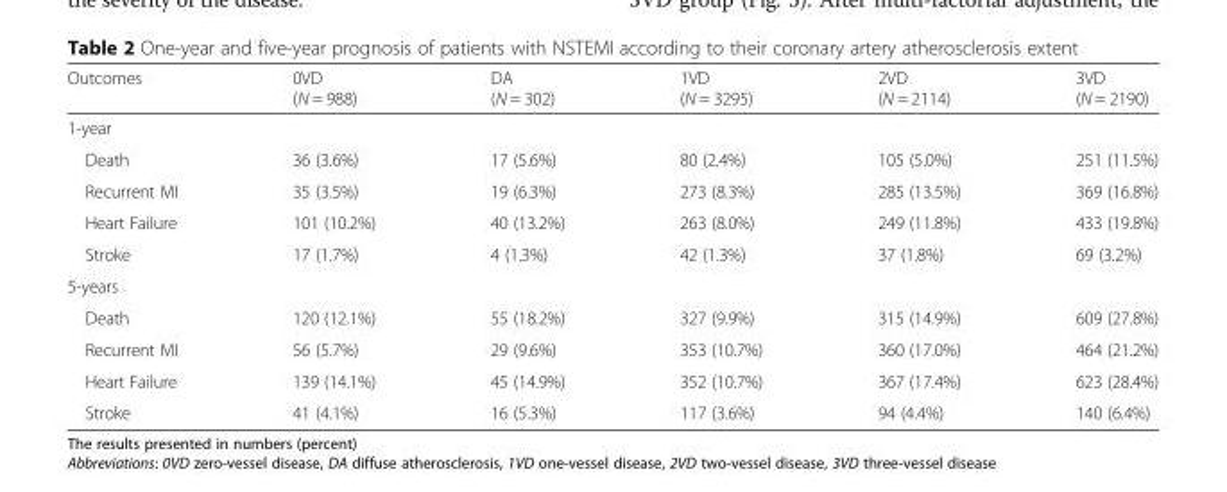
<table><thead><tr><td>Outcomes</td><td>0VD (N = 988)</td><td>DA (N = 302)</td><td>1VD (N = 3295)</td><td>2VD (N = 2114)</td><td>3VD (N = 2190)</td></tr></thead><tbody><tr><td colspan="6">1-year</td></tr><tr><td>Death</td><td>36 (3.6%)</td><td>17 (5.6%)</td><td>80 (2.4%)</td><td>105 (5.0%)</td><td>251 (11.5%)</td></tr><tr><td>Recurrent MI</td><td>35 (3.5%)</td><td>19 (6.3%)</td><td>273 (8.3%)</td><td>285 (13.5%)</td><td>369 (16.8%)</td></tr><tr><td>Heart Failure</td><td>101 (10.2%)</td><td>40 (13.2%)</td><td>263 (8.0%)</td><td>249 (11.8%)</td><td>433 (19.8%)</td></tr><tr><td>Stroke</td><td>17 (1.7%)</td><td>4 (1.3%)</td><td>42 (1.3%)</td><td>37 (1.8%)</td><td>69 (3.2%)</td></tr><tr><td colspan="6">5-years</td></tr><tr><td>Death</td><td>120 (12.1%)</td><td>55 (18.2%)</td><td>327 (9.9%)</td><td>315 (14.9%)</td><td>609 (27.8%)</td></tr><tr><td>Recurrent MI</td><td>56 (5.7%)</td><td>29 (9.6%)</td><td>353 (10.7%)</td><td>360 (17.0%)</td><td>464 (21.2%)</td></tr><tr><td>Heart Failure</td><td>139 (14.1%)</td><td>45 (14.9%)</td><td>352 (10.7%)</td><td>367 (17.4%)</td><td>623 (28.4%)</td></tr><tr><td>Stroke</td><td>41 (4.1%)</td><td>16 (5.3%)</td><td>117 (3.6%)</td><td>94 (4.4%)</td><td>140 (6.4%)</td></tr></tbody></table>